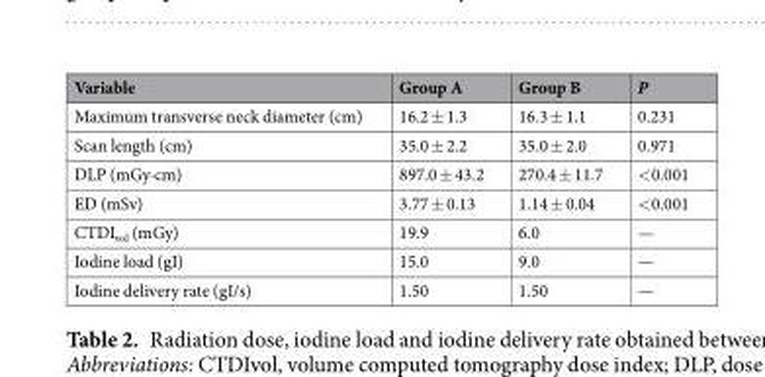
<table><thead><tr><td>Variable</td><td>Group A</td><td>Group B</td><td>P</td></tr></thead><tbody><tr><td>Maximum transverse neck diameter (cm)</td><td>16.2 ± 1.3</td><td>16.3 ± 1.1</td><td>0.231</td></tr><tr><td>Scan length (cm)</td><td>35.0 ± 2.2</td><td>35.0 ± 2.0</td><td>0.971</td></tr><tr><td>DLP (mGy·cm)</td><td>897.0 ± 43.2</td><td>270.4 ± 11.7</td><td>&lt;0.001</td></tr><tr><td>ED (mSv)</td><td>3.77 ± 0.13</td><td>1.14 ± 0.04</td><td>&lt;0.001</td></tr><tr><td>CTDI<sub>vol</sub> (mGy)</td><td>19.9</td><td>6.0</td><td>—</td></tr><tr><td>Iodine load (gI)</td><td>15.0</td><td>9.0</td><td>—</td></tr><tr><td>Iodine delivery rate (gI/s)</td><td>1.50</td><td>1.50</td><td>—</td></tr></tbody></table>